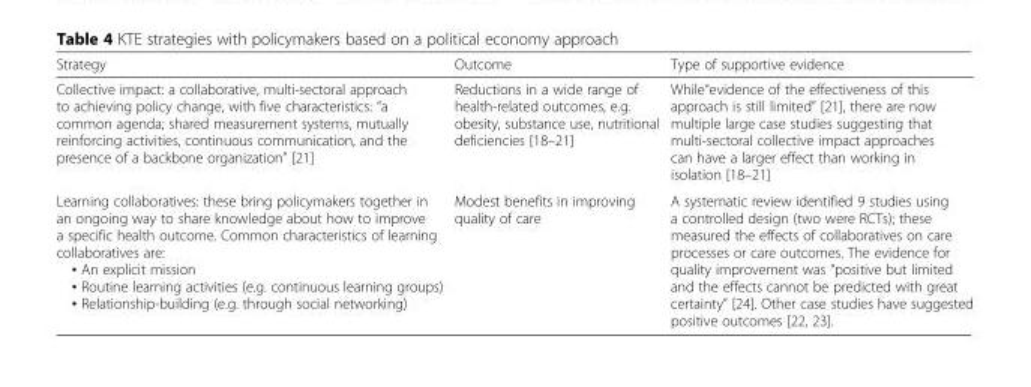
<table><thead><tr><td>Strategy</td><td>Outcome</td><td>Type of supportive evidence</td></tr></thead><tbody><tr><td>Collective impact: a collaborative, multi-sectoral approach to achieving policy change, with five characteristics: “a common agenda; shared measurement systems, mutually reinforcing activities, continuous communication, and the presence of a backbone organization” [21]</td><td>Reductions in a wide range of health-related outcomes, e.g. obesity, substance use, nutritional deficiencies [18–21]</td><td>While“evidence of the effectiveness of this approach is still limited” [21], there are now multiple large case studies suggesting that multi-sectoral collective impact approaches can have a larger effect than working in isolation [18–21]</td></tr><tr><td>Learning collaboratives: these bring policymakers together in an ongoing way to share knowledge about how to improve a specific health outcome. Common characteristics of learning collaboratives are: • An explicit mission • Routine learning activities (e.g. continuous learning groups) • Relationship-building (e.g. through social networking)</td><td>Modest benefits in improving quality of care</td><td>A systematic review identified 9 studies using a controlled design (two were RCTs); these measured the effects of collaboratives on care processes or care outcomes. The evidence for quality improvement was “positive but limited and the effects cannot be predicted with great certainty” [24]. Other case studies have suggested positive outcomes [22, 23].</td></tr></tbody></table>